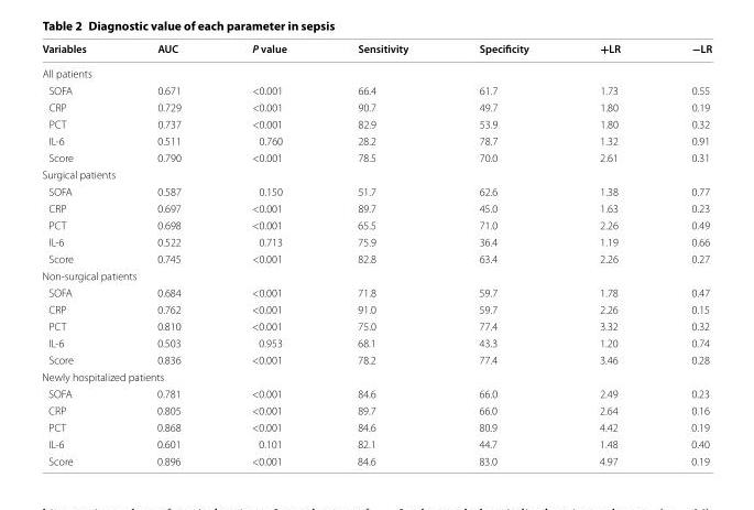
<table><thead><tr><td>Variables</td><td>AUC</td><td>P value</td><td>Sensitivity</td><td>Specificity</td><td>+LR</td><td>−LR</td></tr></thead><tbody><tr><td colspan="7">All patients</td></tr><tr><td>SOFA</td><td>0.671</td><td>&lt;0.001</td><td>66.4</td><td>61.7</td><td>1.73</td><td>0.55</td></tr><tr><td>CRP</td><td>0.729</td><td>&lt;0.001</td><td>90.7</td><td>49.7</td><td>1.80</td><td>0.19</td></tr><tr><td>PCT</td><td>0.737</td><td>&lt;0.001</td><td>82.9</td><td>53.9</td><td>1.80</td><td>0.32</td></tr><tr><td>IL-6</td><td>0.511</td><td>0.760</td><td>28.2</td><td>78.7</td><td>1.32</td><td>0.91</td></tr><tr><td>Score</td><td>0.790</td><td>&lt;0.001</td><td>78.5</td><td>70.0</td><td>2.61</td><td>0.31</td></tr><tr><td colspan="7">Surgical patients</td></tr><tr><td>SOFA</td><td>0.587</td><td>0.150</td><td>51.7</td><td>62.6</td><td>1.38</td><td>0.77</td></tr><tr><td>CRP</td><td>0.697</td><td>&lt;0.001</td><td>89.7</td><td>45.0</td><td>1.63</td><td>0.23</td></tr><tr><td>PCT</td><td>0.698</td><td>&lt;0.001</td><td>65.5</td><td>71.0</td><td>2.26</td><td>0.49</td></tr><tr><td>IL-6</td><td>0.522</td><td>0.713</td><td>75.9</td><td>36.4</td><td>1.19</td><td>0.66</td></tr><tr><td>Score</td><td>0.745</td><td>&lt;0.001</td><td>82.8</td><td>63.4</td><td>2.26</td><td>0.27</td></tr><tr><td colspan="7">Non-surgical patients</td></tr><tr><td>SOFA</td><td>0.684</td><td>&lt;0.001</td><td>71.8</td><td>59.7</td><td>1.78</td><td>0.47</td></tr><tr><td>CRP</td><td>0.762</td><td>&lt;0.001</td><td>91.0</td><td>59.7</td><td>2.26</td><td>0.15</td></tr><tr><td>PCT</td><td>0.810</td><td>&lt;0.001</td><td>75.0</td><td>77.4</td><td>3.32</td><td>0.32</td></tr><tr><td>IL-6</td><td>0.503</td><td>0.953</td><td>68.1</td><td>43.3</td><td>1.20</td><td>0.74</td></tr><tr><td>Score</td><td>0.836</td><td>&lt;0.001</td><td>78.2</td><td>77.4</td><td>3.46</td><td>0.28</td></tr><tr><td colspan="7">Newly hospitalized patients</td></tr><tr><td>SOFA</td><td>0.781</td><td>&lt;0.001</td><td>84.6</td><td>66.0</td><td>2.49</td><td>0.23</td></tr><tr><td>CRP</td><td>0.805</td><td>&lt;0.001</td><td>89.7</td><td>66.0</td><td>2.64</td><td>0.16</td></tr><tr><td>PCT</td><td>0.868</td><td>&lt;0.001</td><td>84.6</td><td>80.9</td><td>4.42</td><td>0.19</td></tr><tr><td>IL-6</td><td>0.601</td><td>0.101</td><td>82.1</td><td>44.7</td><td>1.48</td><td>0.40</td></tr><tr><td>Score</td><td>0.896</td><td>&lt;0.001</td><td>84.6</td><td>83.0</td><td>4.97</td><td>0.19</td></tr></tbody></table>